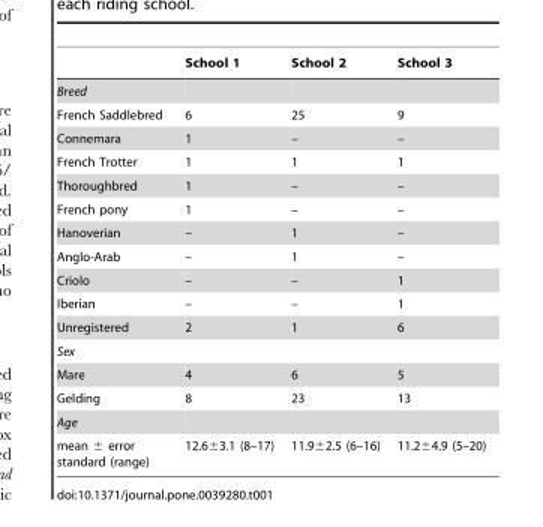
<table><thead><tr><td></td><td>School 1</td><td>School 2</td><td>School 3</td></tr></thead><tbody><tr><td colspan="4">Breed</td></tr><tr><td>French Saddlebred</td><td>6</td><td>25</td><td>9</td></tr><tr><td>Connemara</td><td>1</td><td>–</td><td>–</td></tr><tr><td>French Trotter</td><td>1</td><td>1</td><td>1</td></tr><tr><td>Thoroughbred</td><td>1</td><td>–</td><td>–</td></tr><tr><td>French pony</td><td>1</td><td>–</td><td>–</td></tr><tr><td>Hanoverian</td><td>–</td><td>1</td><td>–</td></tr><tr><td>Anglo-Arab</td><td>–</td><td>1</td><td>–</td></tr><tr><td>Criolo</td><td>–</td><td>–</td><td>1</td></tr><tr><td>Iberian</td><td>–</td><td>–</td><td>1</td></tr><tr><td>Unregistered</td><td>2</td><td>1</td><td>6</td></tr><tr><td colspan="4">Sex</td></tr><tr><td>Mare</td><td>4</td><td>6</td><td>5</td></tr><tr><td>Gelding</td><td>8</td><td>23</td><td>13</td></tr><tr><td colspan="4">Age</td></tr><tr><td>mean ± error standard (range)</td><td>12.6±3.1 (8–17)</td><td>11.9±2.5 (6–16)</td><td>11.2±4.9 (5–20)</td></tr></tbody></table>